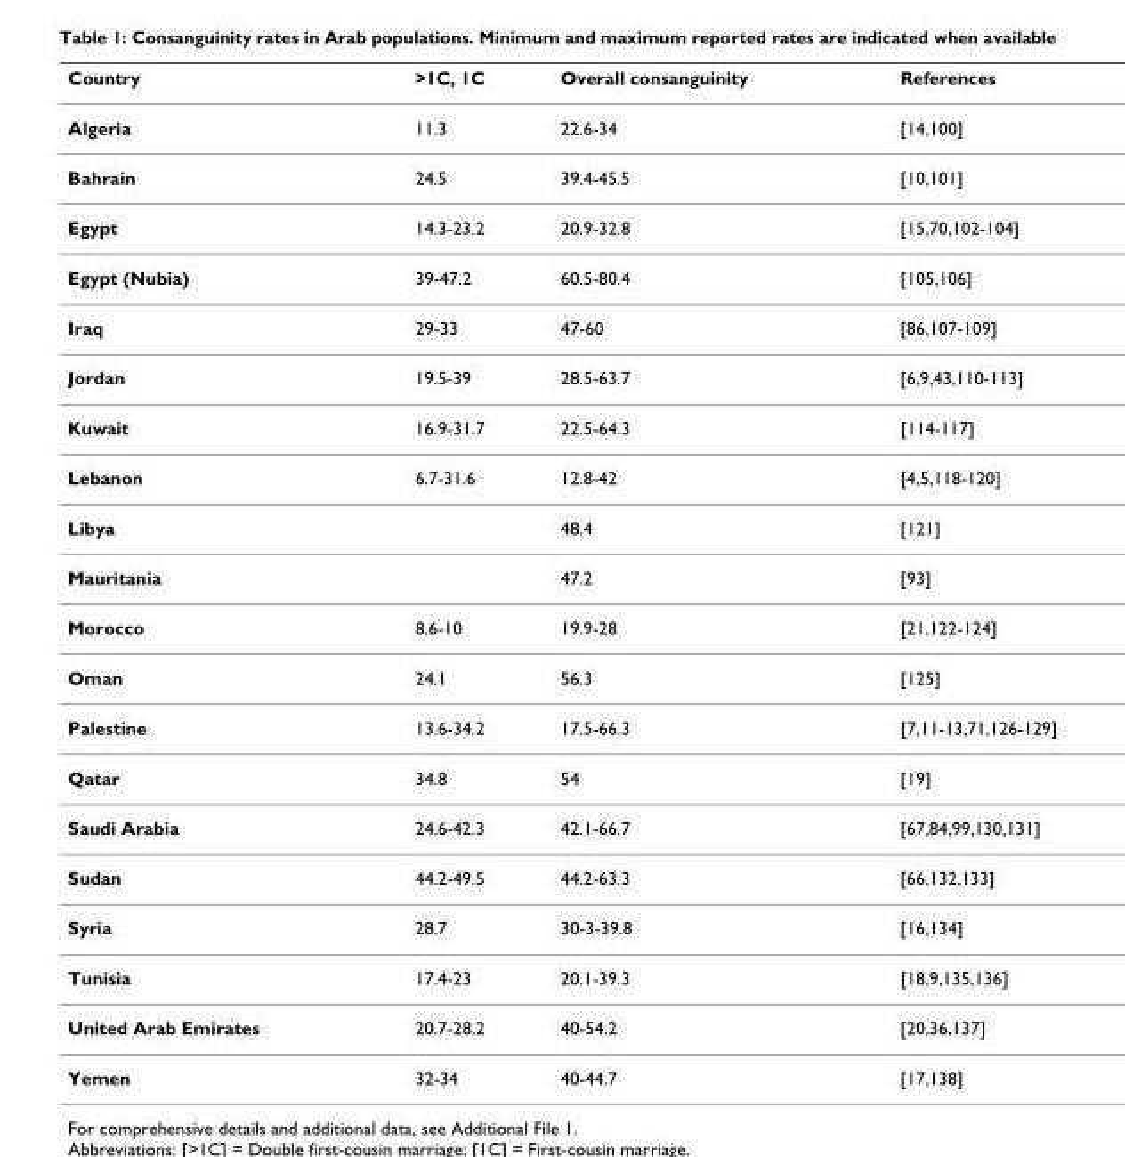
<table><thead><tr><td>Country</td><td>&gt;1C, 1C</td><td>Overall consanguinity</td><td>References</td></tr></thead><tbody><tr><td>Algeria</td><td>11.3</td><td>22.6-34</td><td>[14,100]</td></tr><tr><td>Bahrain</td><td>24.5</td><td>39.4-45.5</td><td>[10,101]</td></tr><tr><td>Egypt</td><td>14.3-23.2</td><td>20.9-32.8</td><td>[15,70,102-104]</td></tr><tr><td>Egypt (Nubia)</td><td>39-47.2</td><td>60.5-80.4</td><td>[105,106]</td></tr><tr><td>Iraq</td><td>29-33</td><td>47-60</td><td>[86,107-109]</td></tr><tr><td>Jordan</td><td>19.5-39</td><td>28.5-63.7</td><td>[6,9,43,110-113]</td></tr><tr><td>Kuwait</td><td>16.9-31.7</td><td>22.5-64.3</td><td>[114-117]</td></tr><tr><td>Lebanon</td><td>6.7-31.6</td><td>12.8-42</td><td>[4,5,118-120]</td></tr><tr><td>Libya</td><td></td><td>48.4</td><td>[121]</td></tr><tr><td>Mauritania</td><td></td><td>47.2</td><td>[93]</td></tr><tr><td>Morocco</td><td>8.6-10</td><td>19.9-28</td><td>[21,122-124]</td></tr><tr><td>Oman</td><td>24.1</td><td>56.3</td><td>[125]</td></tr><tr><td>Palestine</td><td>13.6-34.2</td><td>17.5-66.3</td><td>[7,11-13,71,126-129]</td></tr><tr><td>Qatar</td><td>34.8</td><td>54</td><td>[19]</td></tr><tr><td>Saudi Arabia</td><td>24.6-42.3</td><td>42.1-66.7</td><td>[67,84,99,130,131]</td></tr><tr><td>Sudan</td><td>44.2-49.5</td><td>44.2-63.3</td><td>[66,132,133]</td></tr><tr><td>Syria</td><td>28.7</td><td>30-3-39.8</td><td>[16,134]</td></tr><tr><td>Tunisia</td><td>17.4-23</td><td>20.1-39.3</td><td>[18,9,135,136]</td></tr><tr><td>United Arab Emirates</td><td>20.7-28.2</td><td>40-54.2</td><td>[20,36,137]</td></tr><tr><td>Yemen</td><td>32-34</td><td>40-44.7</td><td>[17,138]</td></tr></tbody></table>